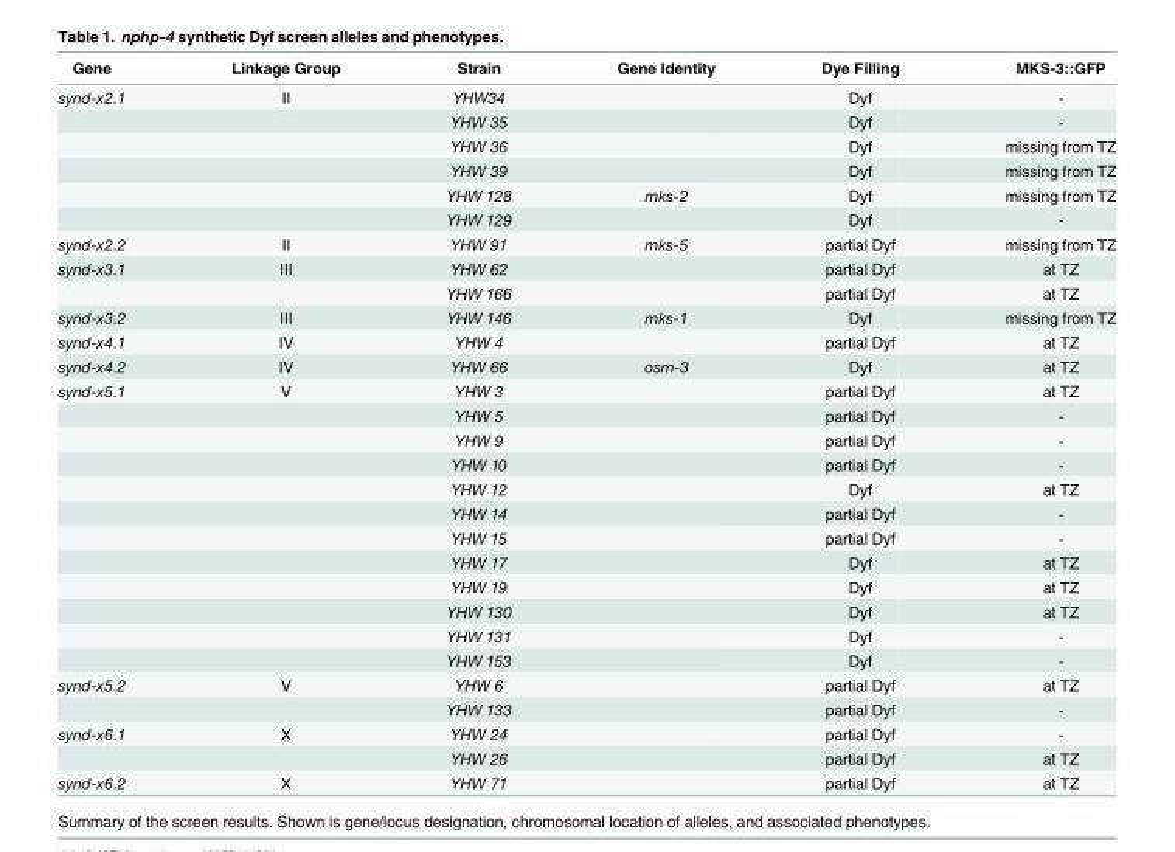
<table><thead><tr><td>Gene</td><td>Linkage Group</td><td>Strain</td><td>Gene Identity</td><td>Dye Filling</td><td>MKS-3::GFP</td></tr></thead><tbody><tr><td rowspan="6">synd-x2.1</td><td>II</td><td>YHW34</td><td></td><td>Dyf</td><td>-</td></tr><tr><td></td><td>YHW 35</td><td></td><td>Dyf</td><td>-</td></tr><tr><td></td><td>YHW 36</td><td></td><td>Dyf</td><td>missing from TZ</td></tr><tr><td></td><td>YHW 39</td><td></td><td>Dyf</td><td>missing from TZ</td></tr><tr><td></td><td>YHW 128</td><td>mks-2</td><td>Dyf</td><td>missing from TZ</td></tr><tr><td></td><td>YHW 129</td><td></td><td>Dyf</td><td>-</td></tr><tr><td>synd-x2.2</td><td>II</td><td>YHW 91</td><td>mks-5</td><td>partial Dyf</td><td>missing from TZ</td></tr><tr><td rowspan="2">synd-x3.1</td><td>III</td><td>YHW 62</td><td></td><td>partial Dyf</td><td>at TZ</td></tr><tr><td></td><td>YHW 166</td><td></td><td>partial Dyf</td><td>at TZ</td></tr><tr><td>synd-x3.2</td><td>III</td><td>YHW 146</td><td>mks-1</td><td>Dyf</td><td>missing from TZ</td></tr><tr><td>synd-x4.1</td><td>IV</td><td>YHW 4</td><td></td><td>partial Dyf</td><td>at TZ</td></tr><tr><td>synd-x4.2</td><td>IV</td><td>YHW 66</td><td>osm-3</td><td>Dyf</td><td>at TZ</td></tr><tr><td rowspan="12">synd-x5.1</td><td>V</td><td>YHW 3</td><td></td><td>partial Dyf</td><td>at TZ</td></tr><tr><td></td><td>YHW 5</td><td></td><td>partial Dyf</td><td>-</td></tr><tr><td></td><td>YHW 9</td><td></td><td>partial Dyf</td><td>-</td></tr><tr><td></td><td>YHW 10</td><td></td><td>partial Dyf</td><td>-</td></tr><tr><td></td><td>YHW 12</td><td></td><td>Dyf</td><td>at TZ</td></tr><tr><td></td><td>YHW 14</td><td></td><td>partial Dyf</td><td>-</td></tr><tr><td></td><td>YHW 15</td><td></td><td>partial Dyf</td><td>-</td></tr><tr><td></td><td>YHW 17</td><td></td><td>Dyf</td><td>at TZ</td></tr><tr><td></td><td>YHW 19</td><td></td><td>Dyf</td><td>at TZ</td></tr><tr><td></td><td>YHW 130</td><td></td><td>Dyf</td><td>at TZ</td></tr><tr><td></td><td>YHW 131</td><td></td><td>Dyf</td><td>-</td></tr><tr><td></td><td>YHW 153</td><td></td><td>Dyf</td><td>-</td></tr><tr><td rowspan="2">synd-x5.2</td><td>V</td><td>YHW 6</td><td></td><td>partial Dyf</td><td>at TZ</td></tr><tr><td></td><td>YHW 133</td><td></td><td>partial Dyf</td><td>-</td></tr><tr><td rowspan="2">synd-x6.1</td><td>X</td><td>YHW 24</td><td></td><td>partial Dyf</td><td>-</td></tr><tr><td></td><td>YHW 26</td><td></td><td>partial Dyf</td><td>at TZ</td></tr><tr><td>synd-x6.2</td><td>X</td><td>YHW 71</td><td></td><td>partial Dyf</td><td>at TZ</td></tr></tbody></table>